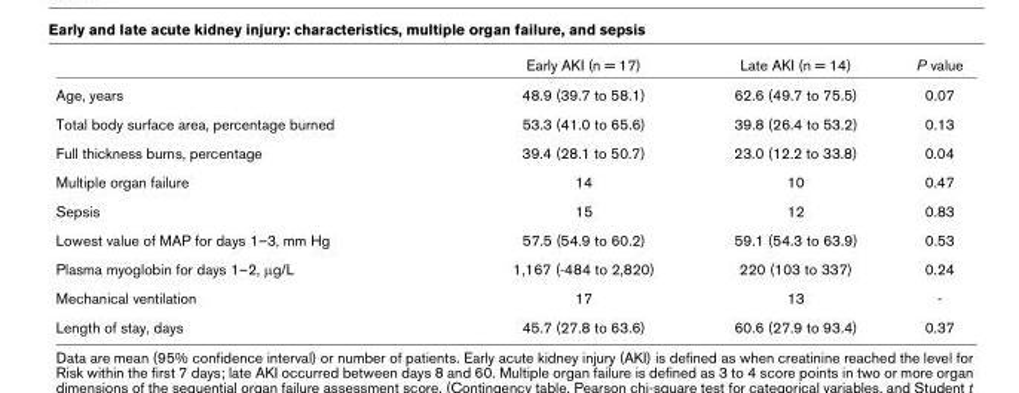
<table><thead><tr><td></td><td>Early AKI (n = 17)</td><td>Late AKI (n = 14)</td><td>P value</td></tr></thead><tbody><tr><td>Age, years</td><td>48.9 (39.7 to 58.1)</td><td>62.6 (49.7 to 75.5)</td><td>0.07</td></tr><tr><td>Total body surface area, percentage burned</td><td>53.3 (41.0 to 65.6)</td><td>39.8 (26.4 to 53.2)</td><td>0.13</td></tr><tr><td>Full thickness burns, percentage</td><td>39.4 (28.1 to 50.7)</td><td>23.0 (12.2 to 33.8)</td><td>0.04</td></tr><tr><td>Multiple organ failure</td><td>14</td><td>10</td><td>0.47</td></tr><tr><td>Sepsis</td><td>15</td><td>12</td><td>0.83</td></tr><tr><td>Lowest value of MAP for days 1–3, mm Hg</td><td>57.5 (54.9 to 60.2)</td><td>59.1 (54.3 to 63.9)</td><td>0.53</td></tr><tr><td>Plasma myoglobin for days 1–2, μg/L</td><td>1,167 (-484 to 2,820)</td><td>220 (103 to 337)</td><td>0.24</td></tr><tr><td>Mechanical ventilation</td><td>17</td><td>13</td><td>-</td></tr><tr><td>Length of stay, days</td><td>45.7 (27.8 to 63.6)</td><td>60.6 (27.9 to 93.4)</td><td>0.37</td></tr></tbody></table>